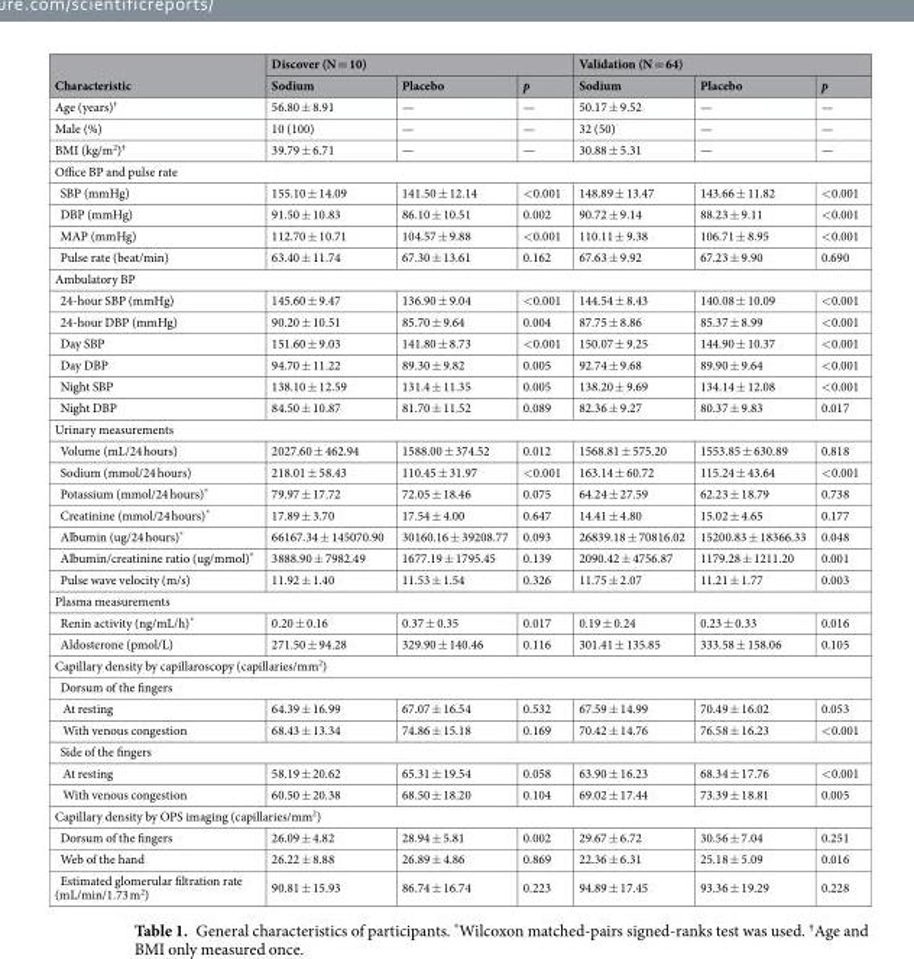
<table><thead><tr><td rowspan="2">Characteristic</td><td colspan="3">Discover (N = 10)</td><td colspan="3">Validation (N = 64)</td></tr><tr><td>Sodium</td><td>Placebo</td><td>p</td><td>Sodium</td><td>Placebo</td><td>p</td></tr></thead><tbody><tr><td>Age (years)<sup>†</sup></td><td>56.80 ± 8.91</td><td>—</td><td>—</td><td>50.17 ± 9.52</td><td>—</td><td>—</td></tr><tr><td>Male (%)</td><td>10 (100)</td><td>—</td><td>—</td><td>32 (50)</td><td>—</td><td>—</td></tr><tr><td>BMI (kg/m<sup>2</sup>)<sup>†</sup></td><td>39.79 ± 6.71</td><td>—</td><td>—</td><td>30.88 ± 5.31</td><td>—</td><td>—</td></tr><tr><td colspan="7">Office BP and pulse rate</td></tr><tr><td>SBP (mmHg)</td><td>155.10 ± 14.09</td><td>141.50 ± 12.14</td><td>&lt;0.001</td><td>148.89 ± 13.47</td><td>143.66 ± 11.82</td><td>&lt;0.001</td></tr><tr><td>DBP (mmHg)</td><td>91.50 ± 10.83</td><td>86.10 ± 10.51</td><td>0.002</td><td>90.72 ± 9.14</td><td>88.23 ± 9.11</td><td>&lt;0.001</td></tr><tr><td>MAP (mmHg)</td><td>112.70 ± 10.71</td><td>104.57 ± 9.88</td><td>&lt;0.001</td><td>110.11 ± 9.38</td><td>106.71 ± 8.95</td><td>&lt;0.001</td></tr><tr><td>Pulse rate (beat/min)</td><td>63.40 ± 11.74</td><td>67.30 ± 13.61</td><td>0.162</td><td>67.63 ± 9.92</td><td>67.23 ± 9.90</td><td>0.690</td></tr><tr><td colspan="7">Ambulatory BP</td></tr><tr><td>24-hour SBP (mmHg)</td><td>145.60 ± 9.47</td><td>136.90 ± 9.04</td><td>&lt;0.001</td><td>144.54 ± 8.43</td><td>140.08 ± 10.09</td><td>&lt;0.001</td></tr><tr><td>24-hour DBP (mmHg)</td><td>90.20 ± 10.51</td><td>85.70 ± 9.64</td><td>0.004</td><td>87.75 ± 8.86</td><td>85.37 ± 8.99</td><td>&lt;0.001</td></tr><tr><td>Day SBP</td><td>151.60 ± 9.03</td><td>141.80 ± 8.73</td><td>&lt;0.001</td><td>150.07 ± 9.25</td><td>144.90 ± 10.37</td><td>&lt;0.001</td></tr><tr><td>Day DBP</td><td>94.70 ± 11.22</td><td>89.30 ± 9.82</td><td>0.005</td><td>92.74 ± 9.68</td><td>89.90 ± 9.64</td><td>&lt;0.001</td></tr><tr><td>Night SBP</td><td>138.10 ± 12.59</td><td>131.4 ± 11.35</td><td>0.005</td><td>138.20 ± 9.69</td><td>134.14 ± 12.08</td><td>&lt;0.001</td></tr><tr><td>Night DBP</td><td>84.50 ± 10.87</td><td>81.70 ± 11.52</td><td>0.089</td><td>82.36 ± 9.27</td><td>80.37 ± 9.83</td><td>0.017</td></tr><tr><td colspan="7">Urinary measurements</td></tr><tr><td>Volume (mL/24 hours)</td><td>2027.60 ± 462.94</td><td>1588.00 ± 374.52</td><td>0.012</td><td>1568.81 ± 575.20</td><td>1553.85 ± 630.89</td><td>0.818</td></tr><tr><td>Sodium (mmol/24 hours)</td><td>218.01 ± 58.43</td><td>110.45 ± 31.97</td><td>&lt;0.001</td><td>163.14 ± 60.72</td><td>115.24 ± 43.64</td><td>&lt;0.001</td></tr><tr><td>Potassium (mmol/24 hours)*</td><td>79.97 ± 17.72</td><td>72.05 ± 18.46</td><td>0.075</td><td>64.24 ± 27.59</td><td>62.23 ± 18.79</td><td>0.738</td></tr><tr><td>Creatinine (mmol/24 hours)*</td><td>17.89 ± 3.70</td><td>17.54 ± 4.00</td><td>0.647</td><td>14.41 ± 4.80</td><td>15.02 ± 4.65</td><td>0.177</td></tr><tr><td>Albumin (ug/24 hours)*</td><td>66167.34 ± 145070.90</td><td>30160.16 ± 39208.77</td><td>0.093</td><td>26839.18 ± 70816.02</td><td>15200.83 ± 18366.33</td><td>0.048</td></tr><tr><td>Albumin/creatinine ratio (ug/mmol)*</td><td>3888.90 ± 7982.49</td><td>1677.19 ± 1795.45</td><td>0.139</td><td>2090.42 ± 4756.87</td><td>1179.28 ± 1211.20</td><td>0.001</td></tr><tr><td>Pulse wave velocity (m/s)</td><td>11.92 ± 1.40</td><td>11.53 ± 1.54</td><td>0.326</td><td>11.75 ± 2.07</td><td>11.21 ± 1.77</td><td>0.003</td></tr><tr><td colspan="7">Plasma measurements</td></tr><tr><td>Renin activity (ng/mL/h)*</td><td>0.20 ± 0.16</td><td>0.37 ± 0.35</td><td>0.017</td><td>0.19 ± 0.24</td><td>0.23 ± 0.33</td><td>0.016</td></tr><tr><td>Aldosterone (pmol/L)</td><td>271.50 ± 94.28</td><td>329.90 ± 140.46</td><td>0.116</td><td>301.41 ± 135.85</td><td>333.58 ± 158.06</td><td>0.105</td></tr><tr><td colspan="7">Capillary density by capillaroscopy (capillaries/mm<sup>2</sup>)</td></tr><tr><td colspan="7">Dorsum of the fingers</td></tr><tr><td>At resting</td><td>64.39 ± 16.99</td><td>67.07 ± 16.54</td><td>0.532</td><td>67.59 ± 14.99</td><td>70.49 ± 16.02</td><td>0.053</td></tr><tr><td>With venous congestion</td><td>68.43 ± 13.34</td><td>74.86 ± 15.18</td><td>0.169</td><td>70.42 ± 14.76</td><td>76.58 ± 16.23</td><td>&lt;0.001</td></tr><tr><td colspan="7">Side of the fingers</td></tr><tr><td>At resting</td><td>58.19 ± 20.62</td><td>65.31 ± 19.54</td><td>0.058</td><td>63.90 ± 16.23</td><td>68.34 ± 17.76</td><td>&lt;0.001</td></tr><tr><td>With venous congestion</td><td>60.50 ± 20.38</td><td>68.50 ± 18.20</td><td>0.104</td><td>69.02 ± 17.44</td><td>73.39 ± 18.81</td><td>0.005</td></tr><tr><td colspan="7">Capillary density by OPS imaging (capillaries/mm<sup>2</sup>)</td></tr><tr><td>Dorsum of the fingers</td><td>26.09 ± 4.82</td><td>28.94 ± 5.81</td><td>0.002</td><td>29.67 ± 6.72</td><td>30.56 ± 7.04</td><td>0.251</td></tr><tr><td>Web of the hand</td><td>26.22 ± 8.88</td><td>26.89 ± 4.86</td><td>0.869</td><td>22.36 ± 6.31</td><td>25.18 ± 5.09</td><td>0.016</td></tr><tr><td>Estimated glomerular filtration rate (mL/min/1.73 m<sup>2</sup>)</td><td>90.81 ± 15.93</td><td>86.74 ± 16.74</td><td>0.223</td><td>94.89 ± 17.45</td><td>93.36 ± 19.29</td><td>0.228</td></tr></tbody></table>